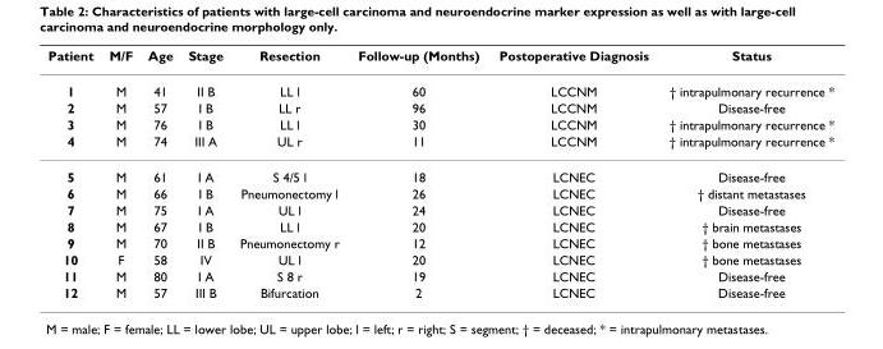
<table><thead><tr><td>Patient</td><td>M/F</td><td>Age</td><td>Stage</td><td>Resection</td><td>Follow-up (Months)</td><td>Postoperative Diagnosis</td><td>Status</td></tr></thead><tbody><tr><td>1</td><td>M</td><td>41</td><td>II B</td><td>LL l</td><td>60</td><td>LCCNM</td><td>† intrapulmonary recurrence *</td></tr><tr><td>2</td><td>M</td><td>57</td><td>I B</td><td>LL r</td><td>96</td><td>LCCNM</td><td>Disease-free</td></tr><tr><td>3</td><td>M</td><td>76</td><td>I B</td><td>LL l</td><td>30</td><td>LCCNM</td><td>† intrapulmonary recurrence *</td></tr><tr><td>4</td><td>M</td><td>74</td><td>III A</td><td>UL r</td><td>11</td><td>LCCNM</td><td>† intrapulmonary recurrence *</td></tr><tr><td>5</td><td>M</td><td>61</td><td>I A</td><td>S 4/5 l</td><td>18</td><td>LCNEC</td><td>Disease-free</td></tr><tr><td>6</td><td>M</td><td>66</td><td>I B</td><td>Pneumonectomy l</td><td>26</td><td>LCNEC</td><td>† distant metastases</td></tr><tr><td>7</td><td>M</td><td>75</td><td>I A</td><td>UL l</td><td>24</td><td>LCNEC</td><td>Disease-free</td></tr><tr><td>8</td><td>M</td><td>67</td><td>I B</td><td>LL l</td><td>20</td><td>LCNEC</td><td>† brain metastases</td></tr><tr><td>9</td><td>M</td><td>70</td><td>II B</td><td>Pneumonectomy r</td><td>12</td><td>LCNEC</td><td>† bone metastases</td></tr><tr><td>10</td><td>F</td><td>58</td><td>IV</td><td>UL l</td><td>20</td><td>LCNEC</td><td>† bone metastases</td></tr><tr><td>11</td><td>M</td><td>80</td><td>I A</td><td>S 8 r</td><td>19</td><td>LCNEC</td><td>Disease-free</td></tr><tr><td>12</td><td>M</td><td>57</td><td>III B</td><td>Bifurcation</td><td>2</td><td>LCNEC</td><td>Disease-free</td></tr></tbody></table>